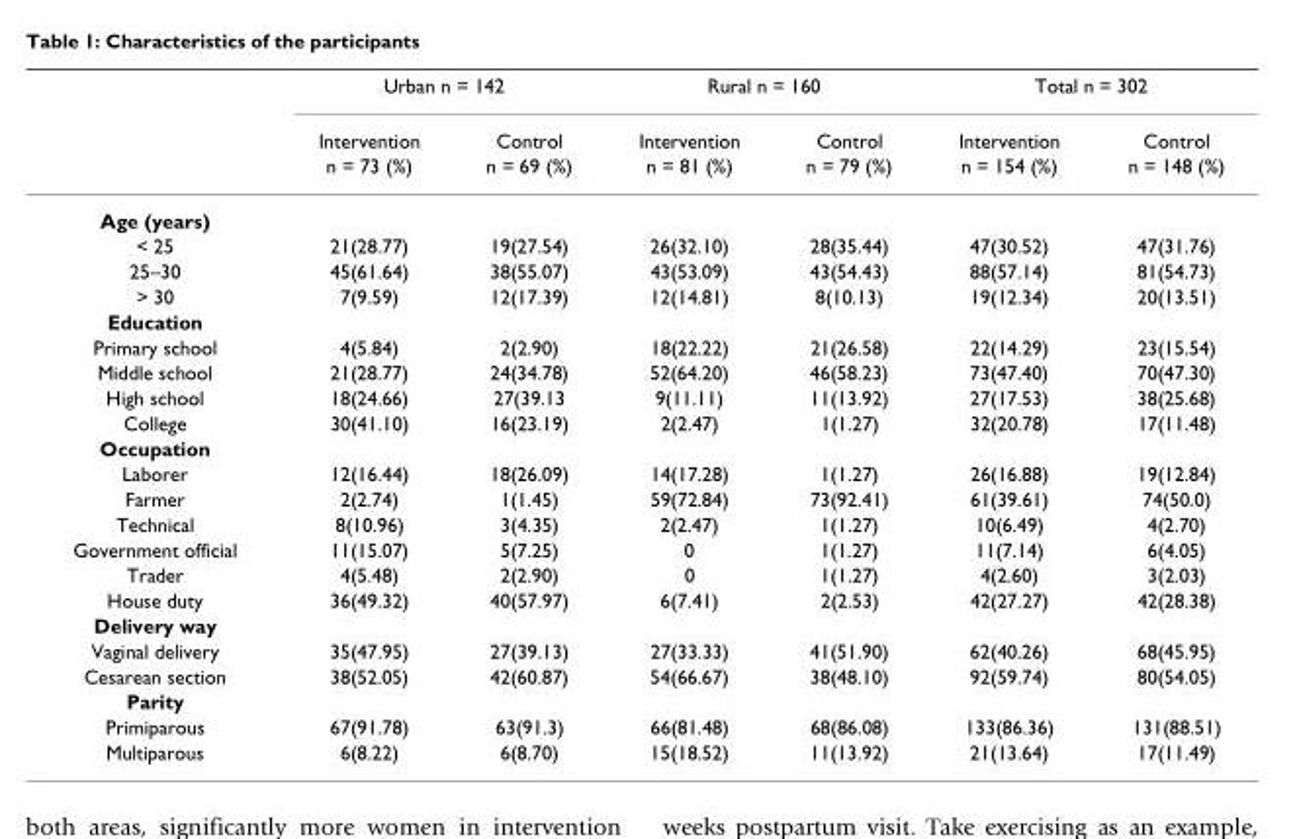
<table><thead><tr><td rowspan="3"></td><td colspan="2">Urban n = 142</td><td colspan="2">Rural n = 160</td><td colspan="2">Total n = 302</td></tr><tr><td rowspan="2">Intervention n = 73 (%)</td><td rowspan="2">Control n = 69 (%)</td><td rowspan="2">Intervention n = 81 (%)</td><td rowspan="2">Control n = 79 (%)</td><td rowspan="2">Intervention n = 154 (%)</td><td rowspan="2">Control n = 148 (%)</td></tr><tr></tr></thead><tbody><tr><td colspan="7">Age (years)</td></tr><tr><td>&lt; 25</td><td>21(28.77)</td><td>19(27.54)</td><td>26(32.10)</td><td>28(35.44)</td><td>47(30.52)</td><td>47(31.76)</td></tr><tr><td>25–30</td><td>45(61.64)</td><td>38(55.07)</td><td>43(53.09)</td><td>43(54.43)</td><td>88(57.14)</td><td>81(54.73)</td></tr><tr><td>&gt; 30</td><td>7(9.59)</td><td>12(17.39)</td><td>12(14.81)</td><td>8(10.13)</td><td>19(12.34)</td><td>20(13.51)</td></tr><tr><td colspan="7">Education</td></tr><tr><td>Primary school</td><td>4(5.84)</td><td>2(2.90)</td><td>18(22.22)</td><td>21(26.58)</td><td>22(14.29)</td><td>23(15.54)</td></tr><tr><td>Middle school</td><td>21(28.77)</td><td>24(34.78)</td><td>52(64.20)</td><td>46(58.23)</td><td>73(47.40)</td><td>70(47.30)</td></tr><tr><td>High school</td><td>18(24.66)</td><td>27(39.13</td><td>9(11.11)</td><td>11(13.92)</td><td>27(17.53)</td><td>38(25.68)</td></tr><tr><td>College</td><td>30(41.10)</td><td>16(23.19)</td><td>2(2.47)</td><td>1(1.27)</td><td>32(20.78)</td><td>17(11.48)</td></tr><tr><td colspan="7">Occupation</td></tr><tr><td>Laborer</td><td>12(16.44)</td><td>18(26.09)</td><td>14(17.28)</td><td>1(1.27)</td><td>26(16.88)</td><td>19(12.84)</td></tr><tr><td>Farmer</td><td>2(2.74)</td><td>1(1.45)</td><td>59(72.84)</td><td>73(92.41)</td><td>61(39.61)</td><td>74(50.0)</td></tr><tr><td>Technical</td><td>8(10.96)</td><td>3(4.35)</td><td>2(2.47)</td><td>1(1.27)</td><td>10(6.49)</td><td>4(2.70)</td></tr><tr><td>Government official</td><td>11(15.07)</td><td>5(7.25)</td><td>0</td><td>1(1.27)</td><td>11(7.14)</td><td>6(4.05)</td></tr><tr><td>Trader</td><td>4(5.48)</td><td>2(2.90)</td><td>0</td><td>1(1.27)</td><td>4(2.60)</td><td>3(2.03)</td></tr><tr><td>House duty</td><td>36(49.32)</td><td>40(57.97)</td><td>6(7.41)</td><td>2(2.53)</td><td>42(27.27)</td><td>42(28.38)</td></tr><tr><td colspan="7">Delivery way</td></tr><tr><td>Vaginal delivery</td><td>35(47.95)</td><td>27(39.13)</td><td>27(33.33)</td><td>41(51.90)</td><td>62(40.26)</td><td>68(45.95)</td></tr><tr><td>Cesarean section</td><td>38(52.05)</td><td>42(60.87)</td><td>54(66.67)</td><td>38(48.10)</td><td>92(59.74)</td><td>80(54.05)</td></tr><tr><td colspan="7">Parity</td></tr><tr><td>Primiparous</td><td>67(91.78)</td><td>63(91.3)</td><td>66(81.48)</td><td>68(86.08)</td><td>133(86.36)</td><td>131(88.51)</td></tr><tr><td>Multiparous</td><td>6(8.22)</td><td>6(8.70)</td><td>15(18.52)</td><td>11(13.92)</td><td>21(13.64)</td><td>17(11.49)</td></tr></tbody></table>